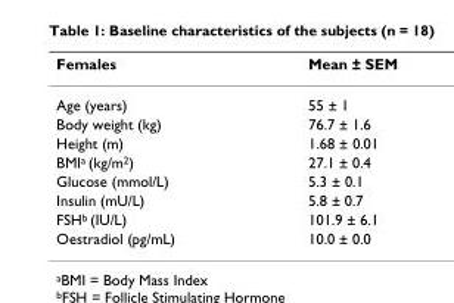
<table><thead><tr><td>Females</td><td>Mean ± SEM</td></tr></thead><tbody><tr><td>Age (years)</td><td>55 ± 1</td></tr><tr><td>Body weight (kg)</td><td>76.7 ± 1.6</td></tr><tr><td>Height (m)</td><td>1.68 ± 0.01</td></tr><tr><td>BMI<sup>a</sup> (kg/m<sup>2</sup>)</td><td>27.1 ± 0.4</td></tr><tr><td>Glucose (mmol/L)</td><td>5.3 ± 0.1</td></tr><tr><td>Insulin (mU/L)</td><td>5.8 ± 0.7</td></tr><tr><td>FSH<sup>b</sup> (IU/L)</td><td>101.9 ± 6.1</td></tr><tr><td>Oestradiol (pg/mL)</td><td>10.0 ± 0.0</td></tr></tbody></table>